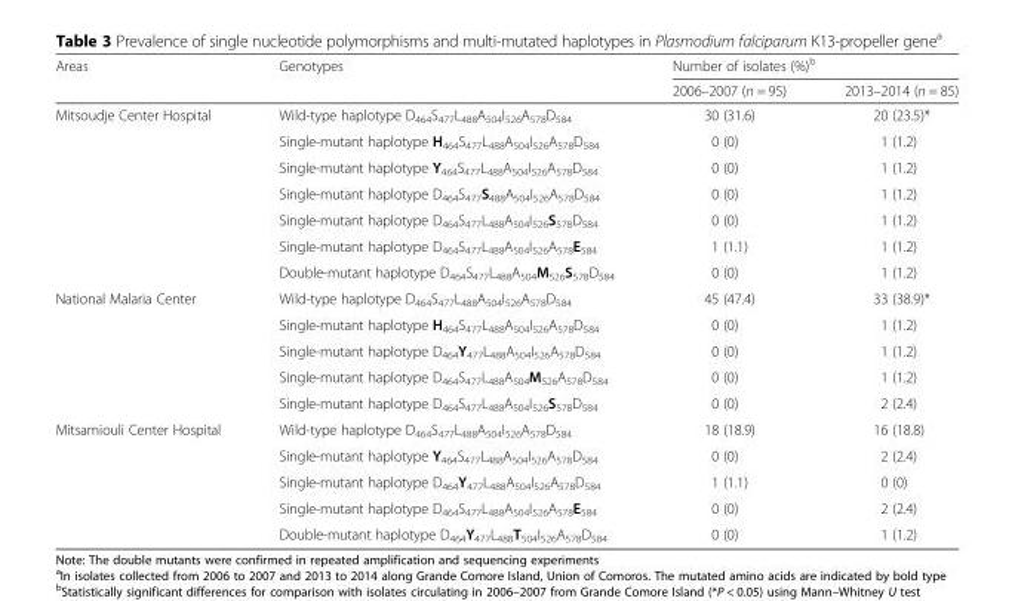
<table><thead><tr><td rowspan="2">Areas</td><td rowspan="2">Genotypes</td><td colspan="2">Number of isolates (%)<sup>b</sup></td></tr><tr><td>2006–2007 (n = 95)</td><td>2013–2014 (n = 85)</td></tr></thead><tbody><tr><td rowspan="7">Mitsoudje Center Hospital</td><td>Wild-type haplotype D<sub>464</sub>S<sub>477</sub>L<sub>488</sub>A<sub>504</sub>I<sub>526</sub>A<sub>578</sub>D<sub>584</sub></td><td>30 (31.6)</td><td>20 (23.5)*</td></tr><tr><td>Single-mutant haplotype H<sub>464</sub>S<sub>477</sub>L<sub>488</sub>A<sub>504</sub>I<sub>526</sub>A<sub>578</sub>D<sub>584</sub></td><td>0 (0)</td><td>1 (1.2)</td></tr><tr><td>Single-mutant haplotype Y<sub>464</sub>S<sub>477</sub>L<sub>488</sub>A<sub>504</sub>I<sub>526</sub>A<sub>578</sub>D<sub>584</sub></td><td>0 (0)</td><td>1 (1.2)</td></tr><tr><td>Single-mutant haplotype D<sub>464</sub>S<sub>477</sub>S<sub>488</sub>A<sub>504</sub>I<sub>526</sub>A<sub>578</sub>D<sub>584</sub></td><td>0 (0)</td><td>1 (1.2)</td></tr><tr><td>Single-mutant haplotype D<sub>464</sub>S<sub>477</sub>L<sub>488</sub>A<sub>504</sub>I<sub>526</sub>S<sub>578</sub>D<sub>584</sub></td><td>0 (0)</td><td>1 (1.2)</td></tr><tr><td>Single-mutant haplotype D<sub>464</sub>S<sub>477</sub>L<sub>488</sub>A<sub>504</sub>I<sub>526</sub>A<sub>578</sub>E<sub>584</sub></td><td>1 (1.1)</td><td>1 (1.2)</td></tr><tr><td>Double-mutant haplotype D<sub>464</sub>S<sub>477</sub>L<sub>488</sub>A<sub>504</sub>M<sub>526</sub>S<sub>578</sub>D<sub>584</sub></td><td>0 (0)</td><td>1 (1.2)</td></tr><tr><td rowspan="5">National Malaria Center</td><td>Wild-type haplotype D<sub>464</sub>S<sub>477</sub>L<sub>488</sub>A<sub>504</sub>I<sub>526</sub>A<sub>578</sub>D<sub>584</sub></td><td>45 (47.4)</td><td>33 (38.9)*</td></tr><tr><td>Single-mutant haplotype H<sub>464</sub>S<sub>477</sub>L<sub>488</sub>A<sub>504</sub>I<sub>526</sub>A<sub>578</sub>D<sub>584</sub></td><td>0 (0)</td><td>1 (1.2)</td></tr><tr><td>Single-mutant haplotype D<sub>464</sub>Y<sub>477</sub>L<sub>488</sub>A<sub>504</sub>I<sub>526</sub>A<sub>578</sub>D<sub>584</sub></td><td>0 (0)</td><td>1 (1.2)</td></tr><tr><td>Single-mutant haplotype D<sub>464</sub>S<sub>477</sub>L<sub>488</sub>A<sub>504</sub>M<sub>526</sub>A<sub>578</sub>D<sub>584</sub></td><td>0 (0)</td><td>1 (1.2)</td></tr><tr><td>Single-mutant haplotype D<sub>464</sub>S<sub>477</sub>L<sub>488</sub>A<sub>504</sub>I<sub>526</sub>S<sub>578</sub>D<sub>584</sub></td><td>0 (0)</td><td>2 (2.4)</td></tr><tr><td rowspan="5">Mitsamiouli Center Hospital</td><td>Wild-type haplotype D<sub>464</sub>S<sub>477</sub>L<sub>488</sub>A<sub>504</sub>I<sub>526</sub>A<sub>578</sub>D<sub>584</sub></td><td>18 (18.9)</td><td>16 (18.8)</td></tr><tr><td>Single-mutant haplotype Y<sub>464</sub>S<sub>477</sub>L<sub>488</sub>A<sub>504</sub>I<sub>526</sub>A<sub>578</sub>D<sub>584</sub></td><td>0 (0)</td><td>2 (2.4)</td></tr><tr><td>Single-mutant haplotype D<sub>464</sub>Y<sub>477</sub>L<sub>488</sub>A<sub>504</sub>I<sub>526</sub>A<sub>578</sub>D<sub>584</sub></td><td>1 (1.1)</td><td>0 (0)</td></tr><tr><td>Single-mutant haplotype D<sub>464</sub>S<sub>477</sub>L<sub>488</sub>A<sub>504</sub>I<sub>526</sub>A<sub>578</sub>E<sub>584</sub></td><td>0 (0)</td><td>2 (2.4)</td></tr><tr><td>Double-mutant haplotype D<sub>464</sub>Y<sub>477</sub>L<sub>488</sub>T<sub>504</sub>I<sub>526</sub>A<sub>578</sub>D<sub>584</sub></td><td>0 (0)</td><td>1 (1.2)</td></tr></tbody></table>